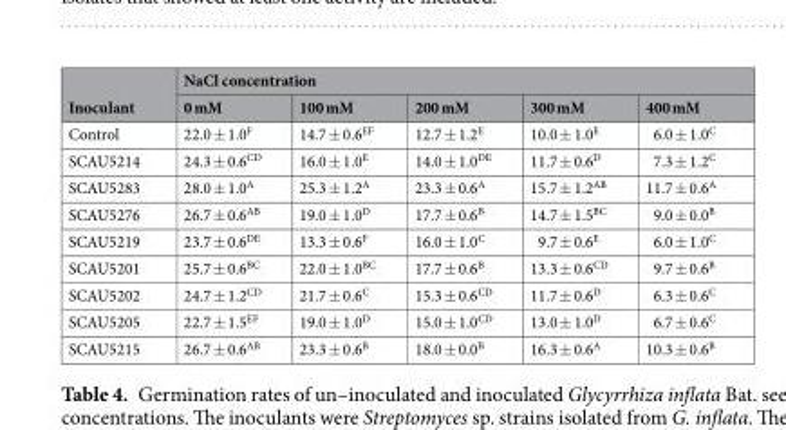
<table><thead><tr><td rowspan="2">Inoculant</td><td colspan="5">NaCl concentration</td></tr><tr><td>0 mM</td><td>100 mM</td><td>200 mM</td><td>300 mM</td><td>400 mM</td></tr></thead><tbody><tr><td>Control</td><td>22.0 ± 1.0<sup>F</sup></td><td>14.7 ± 0.6<sup>EF</sup></td><td>12.7 ± 1.2<sup>E</sup></td><td>10.0 ± 1.0<sup>E</sup></td><td>6.0 ± 1.0<sup>C</sup></td></tr><tr><td>SCAU5214</td><td>24.3 ± 0.6<sup>CD</sup></td><td>16.0 ± 1.0<sup>E</sup></td><td>14.0 ± 1.0<sup>DE</sup></td><td>11.7 ± 0.6<sup>D</sup></td><td>7.3 ± 1.2<sup>C</sup></td></tr><tr><td>SCAU5283</td><td>28.0 ± 1.0<sup>A</sup></td><td>25.3 ± 1.2<sup>A</sup></td><td>23.3 ± 0.6<sup>A</sup></td><td>15.7 ± 1.2<sup>AB</sup></td><td>11.7 ± 0.6<sup>A</sup></td></tr><tr><td>SCAU5276</td><td>26.7 ± 0.6<sup>AB</sup></td><td>19.0 ± 1.0<sup>D</sup></td><td>17.7 ± 0.6<sup>B</sup></td><td>14.7 ± 1.5<sup>BC</sup></td><td>9.0 ± 0.0<sup>B</sup></td></tr><tr><td>SCAU5219</td><td>23.7 ± 0.6<sup>DE</sup></td><td>13.3 ± 0.6<sup>F</sup></td><td>16.0 ± 1.0<sup>C</sup></td><td>9.7 ± 0.6<sup>E</sup></td><td>6.0 ± 1.0<sup>C</sup></td></tr><tr><td>SCAU5201</td><td>25.7 ± 0.6<sup>BC</sup></td><td>22.0 ± 1.0<sup>BC</sup></td><td>17.7 ± 0.6<sup>B</sup></td><td>13.3 ± 0.6<sup>CD</sup></td><td>9.7 ± 0.6<sup>B</sup></td></tr><tr><td>SCAU5202</td><td>24.7 ± 1.2<sup>CD</sup></td><td>21.7 ± 0.6<sup>C</sup></td><td>15.3 ± 0.6<sup>CD</sup></td><td>11.7 ± 0.6<sup>D</sup></td><td>6.3 ± 0.6<sup>C</sup></td></tr><tr><td>SCAU5205</td><td>22.7 ± 1.5<sup>EF</sup></td><td>19.0 ± 1.0<sup>D</sup></td><td>15.0 ± 1.0<sup>CD</sup></td><td>13.0 ± 1.0<sup>D</sup></td><td>6.7 ± 0.6<sup>C</sup></td></tr><tr><td>SCAU5215</td><td>26.7 ± 0.6<sup>AB</sup></td><td>23.3 ± 0.6<sup>B</sup></td><td>18.0 ± 0.0<sup>B</sup></td><td>16.3 ± 0.6<sup>A</sup></td><td>10.3 ± 0.6<sup>B</sup></td></tr></tbody></table>